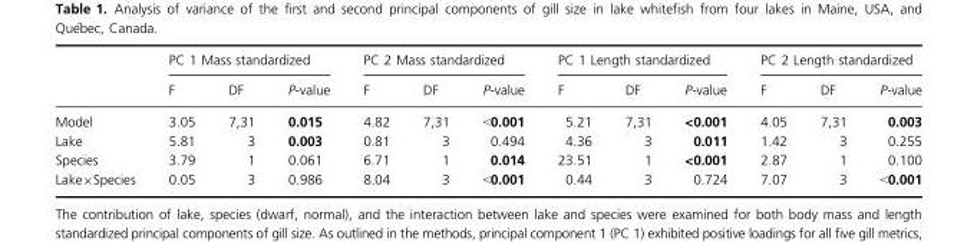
<table><thead><tr><td rowspan="2"></td><td colspan="3">PC 1 Mass standardized</td><td colspan="3">PC 2 Mass standardized</td><td colspan="3">PC 1 Length standardized</td><td colspan="3">PC 2 Length standardized</td></tr><tr><td>F</td><td>DF</td><td>P-value</td><td>F</td><td>DF</td><td>P-value</td><td>F</td><td>DF</td><td>P-value</td><td>F</td><td>DF</td><td>P-value</td></tr></thead><tbody><tr><td>Model</td><td>3.05</td><td>7,31</td><td>0.015</td><td>4.82</td><td>7,31</td><td>&lt;0.001</td><td>5.21</td><td>7,31</td><td>&lt;0.001</td><td>4.05</td><td>7,31</td><td>0.003</td></tr><tr><td>Lake</td><td>5.81</td><td>3</td><td>0.003</td><td>0.81</td><td>3</td><td>0.494</td><td>4.36</td><td>3</td><td>0.011</td><td>1.42</td><td>3</td><td>0.255</td></tr><tr><td>Species</td><td>3.79</td><td>1</td><td>0.061</td><td>6.71</td><td>1</td><td>0.014</td><td>23.51</td><td>1</td><td>&lt;0.001</td><td>2.87</td><td>1</td><td>0.100</td></tr><tr><td>Lake×Species</td><td>0.05</td><td>3</td><td>0.986</td><td>8.04</td><td>3</td><td>&lt;0.001</td><td>0.44</td><td>3</td><td>0.724</td><td>7.07</td><td>3</td><td>&lt;0.001</td></tr></tbody></table>